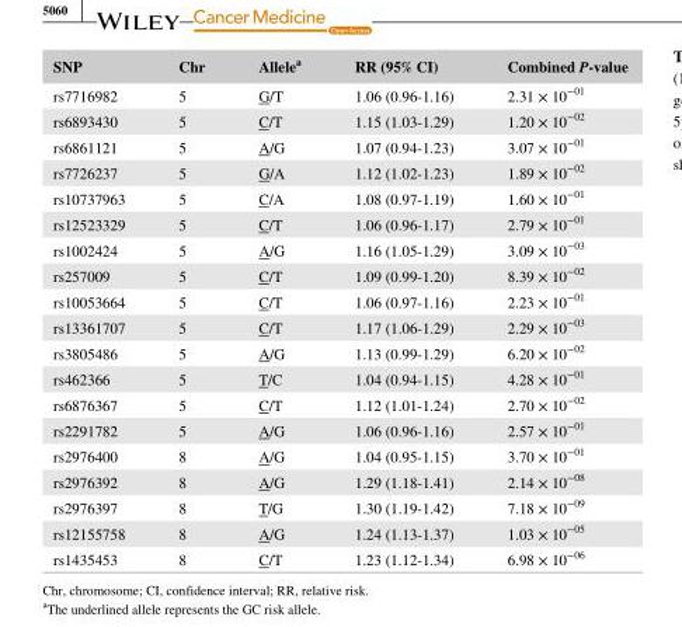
<table><thead><tr><td>SNP</td><td>Chr</td><td>Allele<sup>a</sup></td><td>RR (95% CI)</td><td>Combined P- value</td></tr></thead><tbody><tr><td>rs7716982</td><td>5</td><td>G/T</td><td>1.06 (0.96- 1.16)</td><td>2.31 × 10<sup>−01</sup></td></tr><tr><td>rs6893430</td><td>5</td><td>C/T</td><td>1.15 (1.03- 1.29)</td><td>1.20 × 10<sup>−02</sup></td></tr><tr><td>rs6861121</td><td>5</td><td>A/G</td><td>1.07 (0.94- 1.23)</td><td>3.07 × 10<sup>−01</sup></td></tr><tr><td>rs7726237</td><td>5</td><td>G/A</td><td>1.12 (1.02- 1.23)</td><td>1.89 × 10<sup>−02</sup></td></tr><tr><td>rs10737963</td><td>5</td><td>C/A</td><td>1.08 (0.97- 1.19)</td><td>1.60 × 10<sup>−01</sup></td></tr><tr><td>rs12523329</td><td>5</td><td>C/T</td><td>1.06 (0.96- 1.17)</td><td>2.79 × 10<sup>−01</sup></td></tr><tr><td>rs1002424</td><td>5</td><td>A/G</td><td>1.16 (1.05- 1.29)</td><td>3.09 × 10<sup>−03</sup></td></tr><tr><td>rs257009</td><td>5</td><td>C/T</td><td>1.09 (0.99- 1.20)</td><td>8.39 × 10<sup>−02</sup></td></tr><tr><td>rs10053664</td><td>5</td><td>C/T</td><td>1.06 (0.97- 1.16)</td><td>2.23 × 10<sup>−01</sup></td></tr><tr><td>rs13361707</td><td>5</td><td>C/T</td><td>1.17 (1.06- 1.29)</td><td>2.29 × 10<sup>−03</sup></td></tr><tr><td>rs3805486</td><td>5</td><td>A/G</td><td>1.13 (0.99- 1.29)</td><td>6.20 × 10<sup>−02</sup></td></tr><tr><td>rs462366</td><td>5</td><td>T/C</td><td>1.04 (0.94- 1.15)</td><td>4.28 × 10<sup>−01</sup></td></tr><tr><td>rs6876367</td><td>5</td><td>C/T</td><td>1.12 (1.01- 1.24)</td><td>2.70 × 10<sup>−02</sup></td></tr><tr><td>rs2291782</td><td>5</td><td>A/G</td><td>1.06 (0.96- 1.16)</td><td>2.57 × 10<sup>−01</sup></td></tr><tr><td>rs2976400</td><td>8</td><td>A/G</td><td>1.04 (0.95- 1.15)</td><td>3.70 × 10<sup>−01</sup></td></tr><tr><td>rs2976392</td><td>8</td><td>A/G</td><td>1.29 (1.18- 1.41)</td><td>2.14 × 10<sup>−08</sup></td></tr><tr><td>rs2976397</td><td>8</td><td>T/G</td><td>1.30 (1.19- 1.42)</td><td>7.18 × 10<sup>−09</sup></td></tr><tr><td>rs12155758</td><td>8</td><td>A/G</td><td>1.24 (1.13- 1.37)</td><td>1.03 × 10<sup>−05</sup></td></tr><tr><td>rs1435453</td><td>8</td><td>C/T</td><td>1.23 (1.12- 1.34)</td><td>6.98 × 10<sup>−06</sup></td></tr></tbody></table>